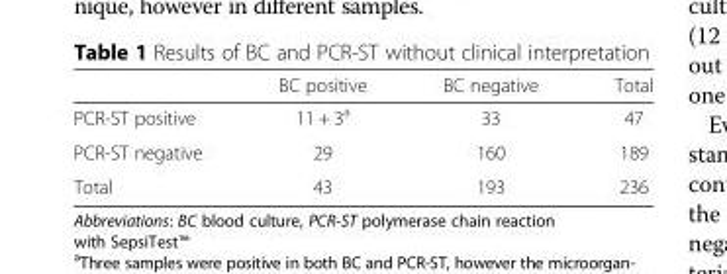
<table><thead><tr><td></td><td>BC positive</td><td>BC negative</td><td>Total</td></tr></thead><tbody><tr><td>PCR-ST positive</td><td>11 + 3<sup>a</sup></td><td>33</td><td>47</td></tr><tr><td>PCR-ST negative</td><td>29</td><td>160</td><td>189</td></tr><tr><td>Total</td><td>43</td><td>193</td><td>236</td></tr></tbody></table>